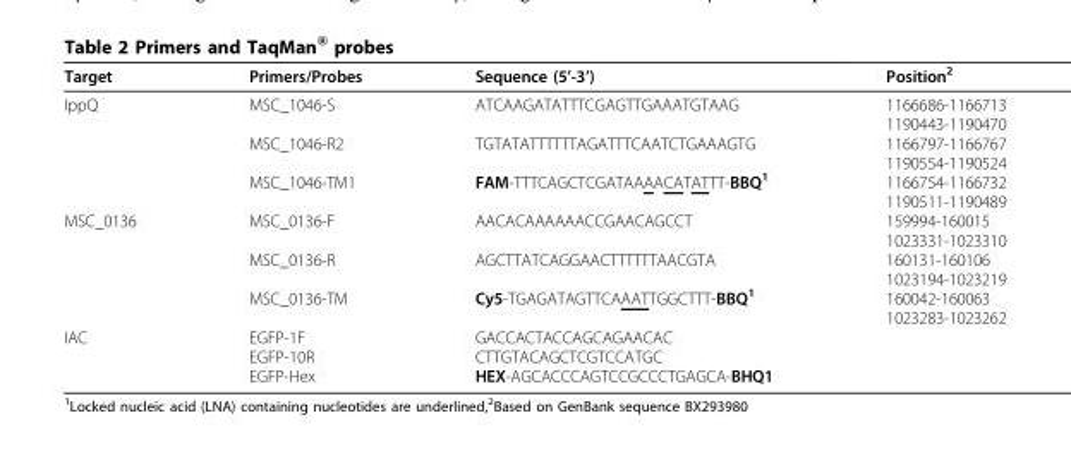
<table><thead><tr><td>Target</td><td>Primers/Probes</td><td>Sequence (5’-3’)</td><td>Position<sup>2</sup></td></tr></thead><tbody><tr><td>IppQ MSC_0136 IAC</td><td>MSC_1046-S MSC_1046-R2 MSC_1046-TM1 MSC_0136-F MSC_0136-R MSC_0136-TM EGFP-1F EGFP-10R EGFP-Hex</td><td>ATCAAGATATTTCGAGTTGAAATGTAAG TGTATATTTTTTAGATTTCAATCTGAAAGTG FAM-TTTCAGCTCGATAAAACATATTT-BBQ<sup>1</sup> AACACAAAAAACCGAACAGCCT AGCTTATCAGGAACTTTTTTAACGTA Cy5-TGAGATAGTTCAAATTGGCTTT-BBQ<sup>1</sup> GACCACTACCAGCAGAACAC CTTGTACAGCTCGTCCATGC HEX-AGCACCCAGTCCGCCCTGAGCA-BHQ1</td><td>1166686-1166713 1190443-1190470 1166797-1166767 1190554-1190524 1166754-1166732 1190511-1190489 159994-160015 1023331-1023310 160131-160106 1023194-1023219 160042-160063 1023283-1023262</td></tr></tbody></table>